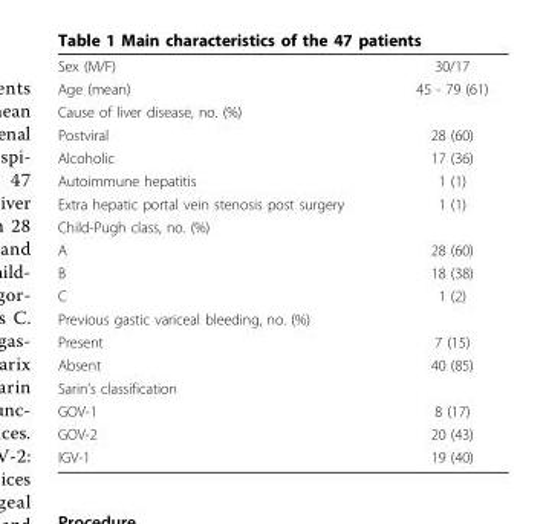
<table><tbody><tr><td>Sex (M/F)</td><td>30/17</td></tr><tr><td>Age (mean)</td><td>45 - 79 (61)</td></tr><tr><td colspan="2">Cause of liver disease, no. (%)</td></tr><tr><td>Postviral</td><td>28 (60)</td></tr><tr><td>Alcoholic</td><td>17 (36)</td></tr><tr><td>Autoimmune hepatitis</td><td>1 (1)</td></tr><tr><td>Extra hepatic portal vein stenosis post surgery</td><td>1 (1)</td></tr><tr><td colspan="2">Child-Pugh class, no. (%)</td></tr><tr><td>A</td><td>28 (60)</td></tr><tr><td>B</td><td>18 (38)</td></tr><tr><td>C</td><td>1 (2)</td></tr><tr><td colspan="2">Previous gastic variceal bleeding, no. (%)</td></tr><tr><td>Present</td><td>7 (15)</td></tr><tr><td>Absent</td><td>40 (85)</td></tr><tr><td colspan="2">Sarin’s classification</td></tr><tr><td>GOV-1</td><td>8 (17)</td></tr><tr><td>GOV-2</td><td>20 (43)</td></tr><tr><td>IGV-1</td><td>19 (40)</td></tr></tbody></table>